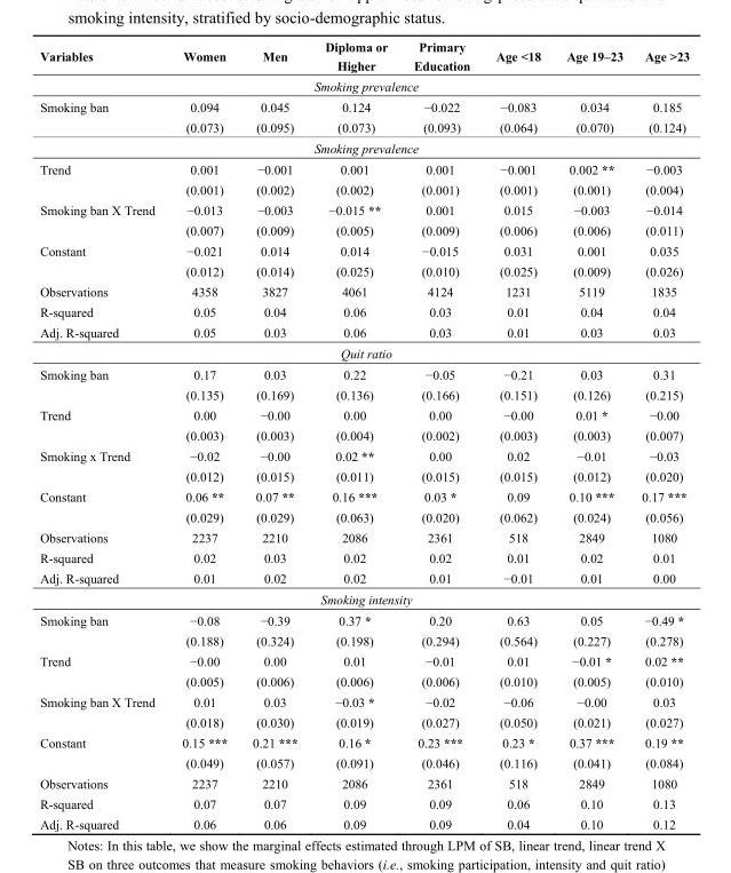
<table><thead><tr><td>Variables</td><td>Women</td><td>Men</td><td>Diploma or Higher</td><td>Primary Education</td><td>Age &lt;18</td><td>Age 19–23</td><td>Age &gt;23</td></tr></thead><tbody><tr><td colspan="8">Smoking prevalence</td></tr><tr><td rowspan="2">Smoking ban</td><td>0.094</td><td>0.045</td><td>0.124</td><td>−0.022</td><td>−0.083</td><td>0.034</td><td>0.185</td></tr><tr><td>(0.073)</td><td>(0.095)</td><td>(0.073)</td><td>(0.093)</td><td>(0.064)</td><td>(0.070)</td><td>(0.124)</td></tr><tr><td colspan="8">Smoking prevalence</td></tr><tr><td rowspan="2">Trend</td><td>0.001</td><td>−0.001</td><td>0.001</td><td>0.001</td><td>−0.001</td><td>0.002 **</td><td>−0.003</td></tr><tr><td>(0.001)</td><td>(0.002)</td><td>(0.002)</td><td>(0.001)</td><td>(0.001)</td><td>(0.001)</td><td>(0.004)</td></tr><tr><td rowspan="2">Smoking ban X Trend</td><td>−0.013</td><td>−0.003</td><td>−0.015 **</td><td>0.001</td><td>0.015</td><td>−0.003</td><td>−0.014</td></tr><tr><td>(0.007)</td><td>(0.009)</td><td>(0.005)</td><td>(0.009)</td><td>(0.006)</td><td>(0.006)</td><td>(0.011)</td></tr><tr><td rowspan="2">Constant</td><td>−0.021</td><td>0.014</td><td>0.014</td><td>−0.015</td><td>0.031</td><td>0.001</td><td>0.035</td></tr><tr><td>(0.012)</td><td>(0.014)</td><td>(0.025)</td><td>(0.010)</td><td>(0.025)</td><td>(0.009)</td><td>(0.026)</td></tr><tr><td>Observations</td><td>4358</td><td>3827</td><td>4061</td><td>4124</td><td>1231</td><td>5119</td><td>1835</td></tr><tr><td>R-squared</td><td>0.05</td><td>0.04</td><td>0.06</td><td>0.03</td><td>0.01</td><td>0.04</td><td>0.04</td></tr><tr><td>Adj. R-squared</td><td>0.05</td><td>0.03</td><td>0.06</td><td>0.03</td><td>0.01</td><td>0.03</td><td>0.03</td></tr><tr><td colspan="8">Quit ratio</td></tr><tr><td rowspan="2">Smoking ban</td><td>0.17</td><td>0.03</td><td>0.22</td><td>−0.05</td><td>−0.21</td><td>0.03</td><td>0.31</td></tr><tr><td>(0.135)</td><td>(0.169)</td><td>(0.136)</td><td>(0.166)</td><td>(0.151)</td><td>(0.126)</td><td>(0.215)</td></tr><tr><td rowspan="2">Trend</td><td>0.00</td><td>−0.00</td><td>0.00</td><td>0.00</td><td>−0.00</td><td>0.01 *</td><td>−0.00</td></tr><tr><td>(0.003)</td><td>(0.003)</td><td>(0.004)</td><td>(0.002)</td><td>(0.003)</td><td>(0.003)</td><td>(0.007)</td></tr><tr><td rowspan="2">Smoking x Trend</td><td>−0.02</td><td>−0.00</td><td>0.02 **</td><td>0.00</td><td>0.02</td><td>−0.01</td><td>−0.03</td></tr><tr><td>(0.012)</td><td>(0.015)</td><td>(0.011)</td><td>(0.015)</td><td>(0.015)</td><td>(0.012)</td><td>(0.020)</td></tr><tr><td rowspan="2">Constant</td><td>0.06 **</td><td>0.07 **</td><td>0.16 ***</td><td>0.03 *</td><td>0.09</td><td>0.10 ***</td><td>0.17 ***</td></tr><tr><td>(0.029)</td><td>(0.029)</td><td>(0.063)</td><td>(0.020)</td><td>(0.062)</td><td>(0.024)</td><td>(0.056)</td></tr><tr><td>Observations</td><td>2237</td><td>2210</td><td>2086</td><td>2361</td><td>518</td><td>2849</td><td>1080</td></tr><tr><td>R-squared</td><td>0.02</td><td>0.03</td><td>0.02</td><td>0.02</td><td>0.01</td><td>0.02</td><td>0.01</td></tr><tr><td>Adj. R-squared</td><td>0.01</td><td>0.02</td><td>0.02</td><td>0.01</td><td>−0.01</td><td>0.01</td><td>0.00</td></tr><tr><td colspan="8">Smoking intensity</td></tr><tr><td rowspan="2">Smoking ban</td><td>−0.08</td><td>−0.39</td><td>0.37 *</td><td>0.20</td><td>0.63</td><td>0.05</td><td>−0.49 *</td></tr><tr><td>(0.188)</td><td>(0.324)</td><td>(0.198)</td><td>(0.294)</td><td>(0.564)</td><td>(0.227)</td><td>(0.278)</td></tr><tr><td rowspan="2">Trend</td><td>−0.00</td><td>0.00</td><td>0.01</td><td>−0.01</td><td>0.01</td><td>−0.01 *</td><td>0.02 **</td></tr><tr><td>(0.005)</td><td>(0.006)</td><td>(0.006)</td><td>(0.006)</td><td>(0.010)</td><td>(0.005)</td><td>(0.010)</td></tr><tr><td rowspan="2">Smoking ban X Trend</td><td>0.01</td><td>0.03</td><td>−0.03 *</td><td>−0.02</td><td>−0.06</td><td>−0.00</td><td>0.03</td></tr><tr><td>(0.018)</td><td>(0.030)</td><td>(0.019)</td><td>(0.027)</td><td>(0.050)</td><td>(0.021)</td><td>(0.027)</td></tr><tr><td rowspan="2">Constant</td><td>0.15 ***</td><td>0.21 ***</td><td>0.16 *</td><td>0.23 ***</td><td>0.23 *</td><td>0.37 ***</td><td>0.19 **</td></tr><tr><td>(0.049)</td><td>(0.057)</td><td>(0.091)</td><td>(0.046)</td><td>(0.116)</td><td>(0.041)</td><td>(0.084)</td></tr><tr><td>Observations</td><td>2237</td><td>2210</td><td>2086</td><td>2361</td><td>518</td><td>2849</td><td>1080</td></tr><tr><td>R-squared</td><td>0.07</td><td>0.07</td><td>0.09</td><td>0.09</td><td>0.06</td><td>0.10</td><td>0.13</td></tr><tr><td>Adj. R-squared</td><td>0.06</td><td>0.06</td><td>0.09</td><td>0.09</td><td>0.04</td><td>0.10</td><td>0.12</td></tr></tbody></table>